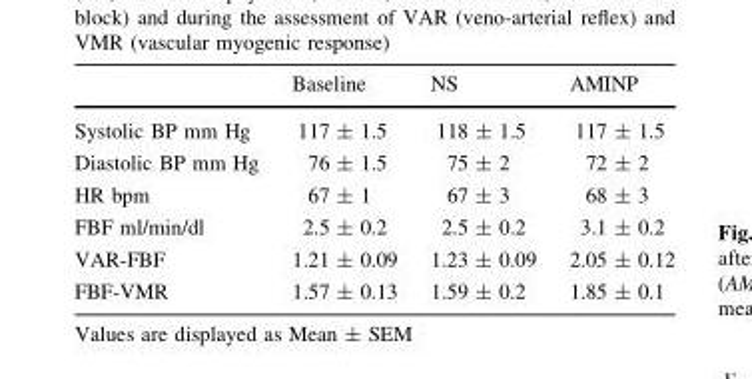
<table><thead><tr><td></td><td>Baseline</td><td>NS</td><td>AMINP</td></tr></thead><tbody><tr><td>Systolic BP mm Hg</td><td>117 ± 1.5</td><td>118 ± 1.5</td><td>117 ± 1.5</td></tr><tr><td>Diastolic BP mm Hg</td><td>76 ± 1.5</td><td>75 ± 2</td><td>72 ± 2</td></tr><tr><td>HR bpm</td><td>67 ± 1</td><td>67 ± 3</td><td>68 ± 3</td></tr><tr><td>FBF ml/min/dl</td><td>2.5 ± 0.2</td><td>2.5 ± 0.2</td><td>3.1 ± 0.2</td></tr><tr><td>VAR-FBF</td><td>1.21 ± 0.09</td><td>1.23 ± 0.09</td><td>2.05 ± 0.12</td></tr><tr><td>FBF-VMR</td><td>1.57 ± 0.13</td><td>1.59 ± 0.2</td><td>1.85 ± 0.1</td></tr></tbody></table>